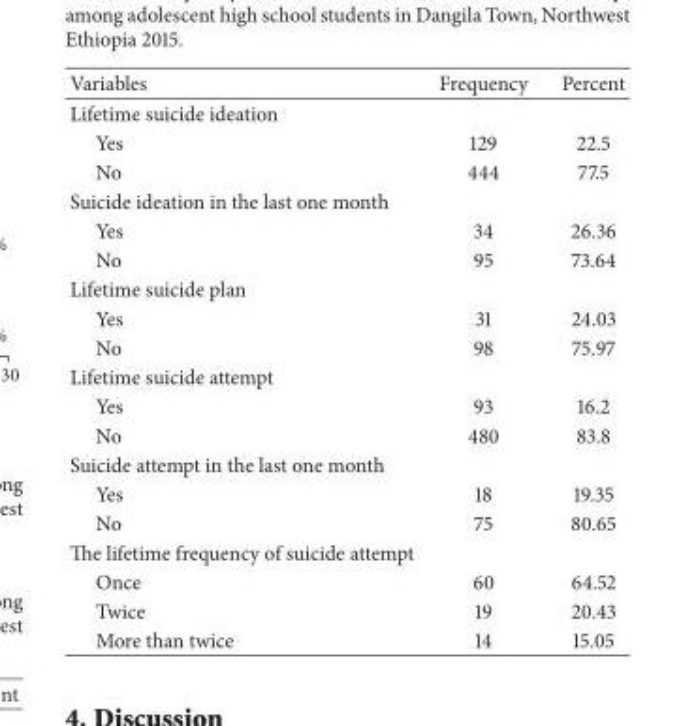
<table><thead><tr><td>Variables</td><td>Frequency</td><td>Percent</td></tr></thead><tbody><tr><td colspan="3">Lifetime suicide ideation</td></tr><tr><td>Yes</td><td>129</td><td>22.5</td></tr><tr><td>No</td><td>444</td><td>77.5</td></tr><tr><td colspan="3">Suicide ideation in the last one month</td></tr><tr><td>Yes</td><td>34</td><td>26.36</td></tr><tr><td>No</td><td>95</td><td>73.64</td></tr><tr><td colspan="3">Lifetime suicide plan</td></tr><tr><td>Yes</td><td>31</td><td>24.03</td></tr><tr><td>No</td><td>98</td><td>75.97</td></tr><tr><td colspan="3">Lifetime suicide attempt</td></tr><tr><td>Yes</td><td>93</td><td>16.2</td></tr><tr><td>No</td><td>480</td><td>83.8</td></tr><tr><td colspan="3">Suicide attempt in the last one month</td></tr><tr><td>Yes</td><td>18</td><td>19.35</td></tr><tr><td>No</td><td>75</td><td>80.65</td></tr><tr><td colspan="3">The lifetime frequency of suicide attempt</td></tr><tr><td>Once</td><td>60</td><td>64.52</td></tr><tr><td>Twice</td><td>19</td><td>20.43</td></tr><tr><td>More than twice</td><td>14</td><td>15.05</td></tr></tbody></table>